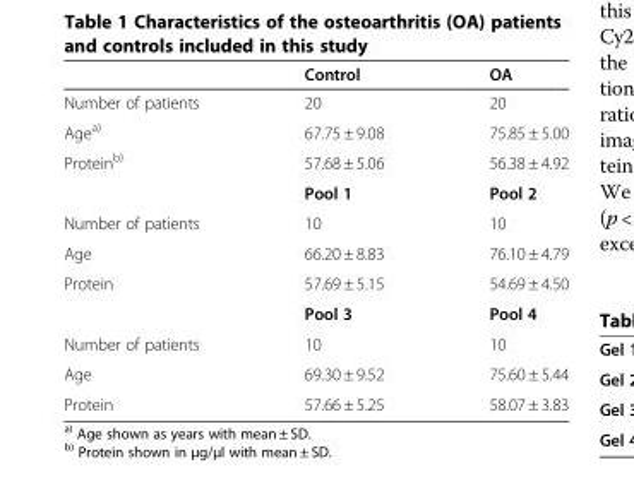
<table><thead><tr><td></td><td>Control</td><td>OA</td></tr></thead><tbody><tr><td>Number of patients</td><td>20</td><td>20</td></tr><tr><td>Age<sup>a)</sup></td><td>67.75 ± 9.08</td><td>75.85 ± 5.00</td></tr><tr><td rowspan="2">Protein<sup>b)</sup></td><td>57.68 ± 5.06</td><td>56.38 ± 4.92</td></tr><tr><td>Pool 1</td><td>Pool 2</td></tr><tr><td>Number of patients</td><td>10</td><td>10</td></tr><tr><td>Age</td><td>66.20 ± 8.83</td><td>76.10 ± 4.79</td></tr><tr><td rowspan="2">Protein</td><td>57.69 ± 5.15</td><td>54.69 ± 4.50</td></tr><tr><td>Pool 3</td><td>Pool 4</td></tr><tr><td>Number of patients</td><td>10</td><td>10</td></tr><tr><td>Age</td><td>69.30 ± 9.52</td><td>75.60 ± 5.44</td></tr><tr><td>Protein</td><td>57.66 ± 5.25</td><td>58.07 ± 3.83</td></tr></tbody></table>